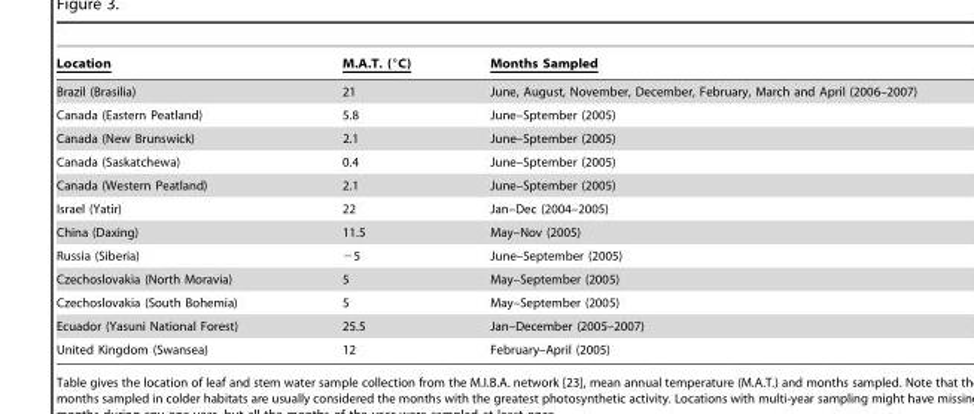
<table><thead><tr><td>Location</td><td>M.A.T. (°C)</td><td>Months Sampled</td></tr></thead><tbody><tr><td>Brazil (Brasilia)</td><td>21</td><td>June, August, November, December, February, March and April (2006–2007)</td></tr><tr><td>Canada (Eastern Peatland)</td><td>5.8</td><td>June–Sptember (2005)</td></tr><tr><td>Canada (New Brunswick)</td><td>2.1</td><td>June–Sptember (2005)</td></tr><tr><td>Canada (Saskatchewa)</td><td>0.4</td><td>June–Sptember (2005)</td></tr><tr><td>Canada (Western Peatland)</td><td>2.1</td><td>June–Sptember (2005)</td></tr><tr><td>Israel (Yatir)</td><td>22</td><td>Jan–Dec (2004–2005)</td></tr><tr><td>China (Daxing)</td><td>11.5</td><td>May–Nov (2005)</td></tr><tr><td>Russia (Siberia)</td><td>−5</td><td>June–September (2005)</td></tr><tr><td>Czechoslovakia (North Moravia)</td><td>5</td><td>May–September (2005)</td></tr><tr><td>Czechoslovakia (South Bohemia)</td><td>5</td><td>May–September (2005)</td></tr><tr><td>Ecuador (Yasuni National Forest)</td><td>25.5</td><td>Jan–December (2005–2007)</td></tr><tr><td>United Kingdom (Swansea)</td><td>12</td><td>February–April (2005)</td></tr></tbody></table>